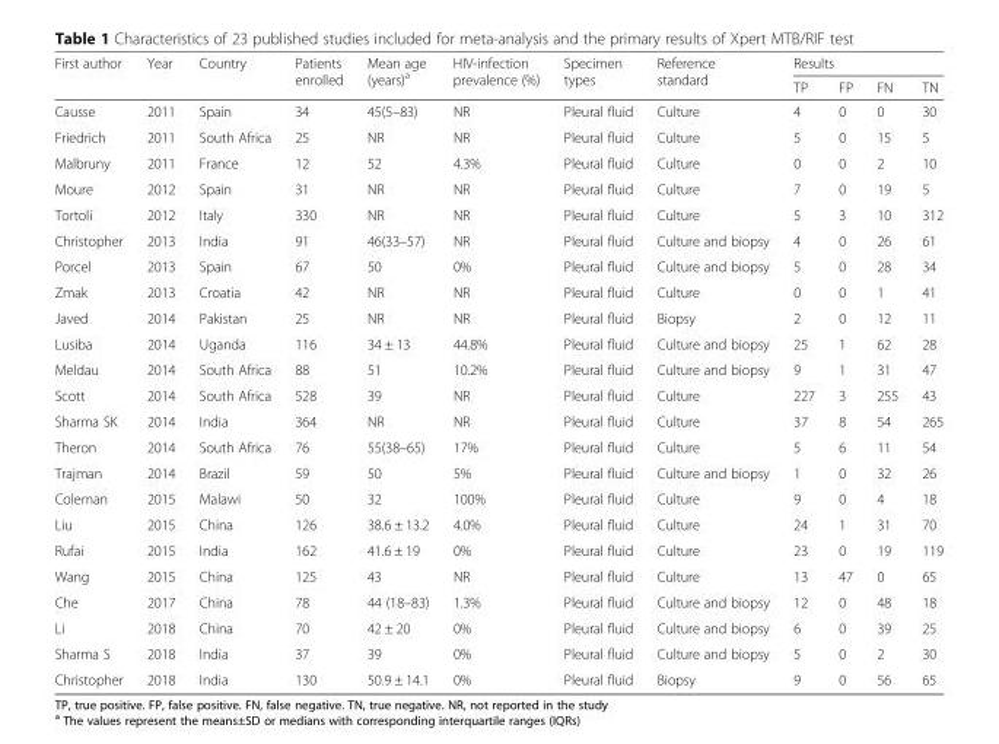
<table><thead><tr><td rowspan="2">First author</td><td rowspan="2">Year</td><td rowspan="2">Country</td><td rowspan="2">Patients enrolled</td><td rowspan="2">Mean age (years)<sup>a</sup></td><td rowspan="2">HIV-infection prevalence (%)</td><td rowspan="2">Specimen types</td><td rowspan="2">Reference standard</td><td colspan="4">Results</td></tr><tr><td>TP</td><td>FP</td><td>FN</td><td>TN</td></tr></thead><tbody><tr><td>Causse</td><td>2011</td><td>Spain</td><td>34</td><td>45(5–83)</td><td>NR</td><td>Pleural fluid</td><td>Culture</td><td>4</td><td>0</td><td>0</td><td>30</td></tr><tr><td>Friedrich</td><td>2011</td><td>South Africa</td><td>25</td><td>NR</td><td>NR</td><td>Pleural fluid</td><td>Culture</td><td>5</td><td>0</td><td>15</td><td>5</td></tr><tr><td>Malbruny</td><td>2011</td><td>France</td><td>12</td><td>52</td><td>4.3%</td><td>Pleural fluid</td><td>Culture</td><td>0</td><td>0</td><td>2</td><td>10</td></tr><tr><td>Moure</td><td>2012</td><td>Spain</td><td>31</td><td>NR</td><td>NR</td><td>Pleural fluid</td><td>Culture</td><td>7</td><td>0</td><td>19</td><td>5</td></tr><tr><td>Tortoli</td><td>2012</td><td>Italy</td><td>330</td><td>NR</td><td>NR</td><td>Pleural fluid</td><td>Culture</td><td>5</td><td>3</td><td>10</td><td>312</td></tr><tr><td>Christopher</td><td>2013</td><td>India</td><td>91</td><td>46(33–57)</td><td>NR</td><td>Pleural fluid</td><td>Culture and biopsy</td><td>4</td><td>0</td><td>26</td><td>61</td></tr><tr><td>Porcel</td><td>2013</td><td>Spain</td><td>67</td><td>50</td><td>0%</td><td>Pleural fluid</td><td>Culture and biopsy</td><td>5</td><td>0</td><td>28</td><td>34</td></tr><tr><td>Zmak</td><td>2013</td><td>Croatia</td><td>42</td><td>NR</td><td>NR</td><td>Pleural fluid</td><td>Culture</td><td>0</td><td>0</td><td>1</td><td>41</td></tr><tr><td>Javed</td><td>2014</td><td>Pakistan</td><td>25</td><td>NR</td><td>NR</td><td>Pleural fluid</td><td>Biopsy</td><td>2</td><td>0</td><td>12</td><td>11</td></tr><tr><td>Lusiba</td><td>2014</td><td>Uganda</td><td>116</td><td>34 ± 13</td><td>44.8%</td><td>Pleural fluid</td><td>Culture and biopsy</td><td>25</td><td>1</td><td>62</td><td>28</td></tr><tr><td>Meldau</td><td>2014</td><td>South Africa</td><td>88</td><td>51</td><td>10.2%</td><td>Pleural fluid</td><td>Culture and biopsy</td><td>9</td><td>1</td><td>31</td><td>47</td></tr><tr><td>Scott</td><td>2014</td><td>South Africa</td><td>528</td><td>39</td><td>NR</td><td>Pleural fluid</td><td>Culture</td><td>227</td><td>3</td><td>255</td><td>43</td></tr><tr><td>Sharma SK</td><td>2014</td><td>India</td><td>364</td><td>NR</td><td>NR</td><td>Pleural fluid</td><td>Culture</td><td>37</td><td>8</td><td>54</td><td>265</td></tr><tr><td>Theron</td><td>2014</td><td>South Africa</td><td>76</td><td>55(38–65)</td><td>17%</td><td>Pleural fluid</td><td>Culture</td><td>5</td><td>6</td><td>11</td><td>54</td></tr><tr><td>Trajman</td><td>2014</td><td>Brazil</td><td>59</td><td>50</td><td>5%</td><td>Pleural fluid</td><td>Culture and biopsy</td><td>1</td><td>0</td><td>32</td><td>26</td></tr><tr><td>Coleman</td><td>2015</td><td>Malawi</td><td>50</td><td>32</td><td>100%</td><td>Pleural fluid</td><td>Culture</td><td>9</td><td>0</td><td>4</td><td>18</td></tr><tr><td>Liu</td><td>2015</td><td>China</td><td>126</td><td>38.6 ± 13.2</td><td>4.0%</td><td>Pleural fluid</td><td>Culture</td><td>24</td><td>1</td><td>31</td><td>70</td></tr><tr><td>Rufai</td><td>2015</td><td>India</td><td>162</td><td>41.6 ± 19</td><td>0%</td><td>Pleural fluid</td><td>Culture</td><td>23</td><td>0</td><td>19</td><td>119</td></tr><tr><td>Wang</td><td>2015</td><td>China</td><td>125</td><td>43</td><td>NR</td><td>Pleural fluid</td><td>Culture</td><td>13</td><td>47</td><td>0</td><td>65</td></tr><tr><td>Che</td><td>2017</td><td>China</td><td>78</td><td>44 (18–83)</td><td>1.3%</td><td>Pleural fluid</td><td>Culture and biopsy</td><td>12</td><td>0</td><td>48</td><td>18</td></tr><tr><td>Li</td><td>2018</td><td>China</td><td>70</td><td>42 ± 20</td><td>0%</td><td>Pleural fluid</td><td>Culture and biopsy</td><td>6</td><td>0</td><td>39</td><td>25</td></tr><tr><td>Sharma S</td><td>2018</td><td>India</td><td>37</td><td>39</td><td>0%</td><td>Pleural fluid</td><td>Culture and biopsy</td><td>5</td><td>0</td><td>2</td><td>30</td></tr><tr><td>Christopher</td><td>2018</td><td>India</td><td>130</td><td>50.9 ± 14.1</td><td>0%</td><td>Pleural fluid</td><td>Biopsy</td><td>9</td><td>0</td><td>56</td><td>65</td></tr></tbody></table>